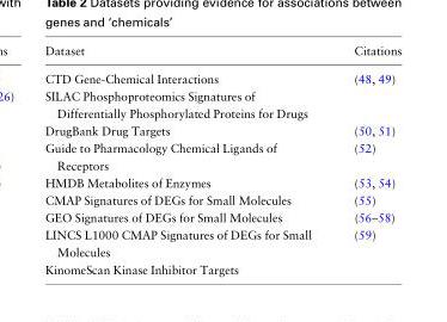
<table><thead><tr><td>Dataset</td><td>Citations</td></tr></thead><tbody><tr><td>CTD Gene-Chemical Interactions</td><td>(48, 49)</td></tr><tr><td colspan="2">SILAC Phosphoproteomics Signatures of Differentially Phosphorylated Proteins for Drugs</td></tr><tr><td>DrugBank Drug Targets</td><td>(50, 51)</td></tr><tr><td>Guide to Pharmacology Chemical Ligands of Receptors</td><td>(52)</td></tr><tr><td>HMDB Metabolites of Enzymes</td><td>(53, 54)</td></tr><tr><td>CMAP Signatures of DEGs for Small Molecules</td><td>(55)</td></tr><tr><td>GEO Signatures of DEGs for Small Molecules</td><td>(56–58)</td></tr><tr><td>LINCS L1000 CMAP Signatures of DEGs for Small Molecules</td><td>(59)</td></tr><tr><td>KinomeScan Kinase Inhibitor Targets</td><td></td></tr></tbody></table>